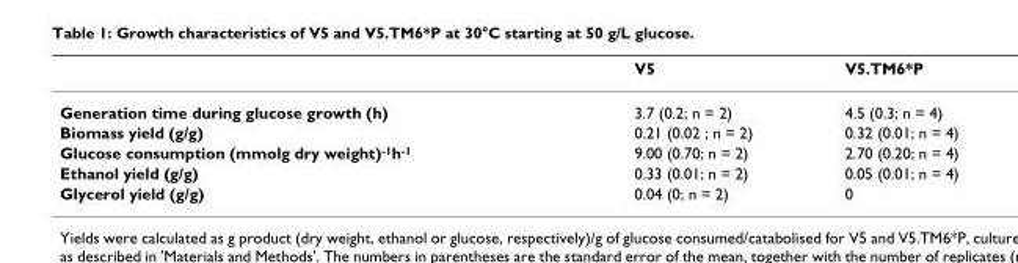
<table><thead><tr><td></td><td>V5</td><td>V5.TM6*P</td></tr></thead><tbody><tr><td>Generation time during glucose growth (h)</td><td>3.7 (0.2; n = 2)</td><td>4.5 (0.3; n = 4)</td></tr><tr><td>Biomass yield (g/g)</td><td>0.21 (0.02 ; n = 2)</td><td>0.32 (0.01; n = 4)</td></tr><tr><td>Glucose consumption (mmolg dry weight)<sup>-1</sup>h<sup>-1</sup></td><td>9.00 (0.70; n = 2)</td><td>2.70 (0.20; n = 4)</td></tr><tr><td>Ethanol yield (g/g)</td><td>0.33 (0.01; n = 2)</td><td>0.05 (0.01; n = 4)</td></tr><tr><td>Glycerol yield (g/g)</td><td>0.04 (0; n = 2)</td><td>0</td></tr></tbody></table>